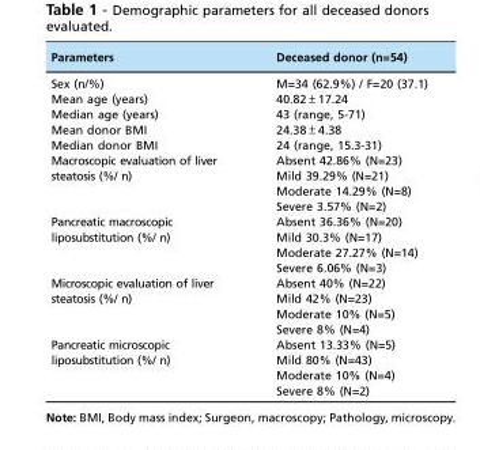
<table><thead><tr><td>Parameters</td><td>Deceased donor (n=54)</td></tr></thead><tbody><tr><td>Sex (n/%)</td><td>M=34 (62.9%) / F=20 (37.1)</td></tr><tr><td>Mean age (years)</td><td>40.82±17.24</td></tr><tr><td>Median age (years)</td><td>43 (range, 5-71)</td></tr><tr><td>Mean donor BMI</td><td>24.38±4.38</td></tr><tr><td>Median donor BMI</td><td>24 (range, 15.3-31)</td></tr><tr><td>Macroscopic evaluation of liver steatosis (%/ n)</td><td>Absent 42.86% (N=23) Mild 39.29% (N=21) Moderate 14.29% (N=8) Severe 3.57% (N=2)</td></tr><tr><td>Pancreatic macroscopic liposubstitution (%/ n)</td><td>Absent 36.36% (N=20) Mild 30.3% (N=17) Moderate 27.27% (N=14) Severe 6.06% (N=3)</td></tr><tr><td>Microscopic evaluation of liver steatosis (%/ n)</td><td>Absent 40% (N=22) Mild 42% (N=23) Moderate 10% (N=5) Severe 8% (N=4)</td></tr><tr><td>Pancreatic microscopic liposubstitution (%/ n)</td><td>Absent 13.33% (N=5) Mild 80% (N=43) Moderate 10% (N=4) Severe 8% (N=2)</td></tr></tbody></table>